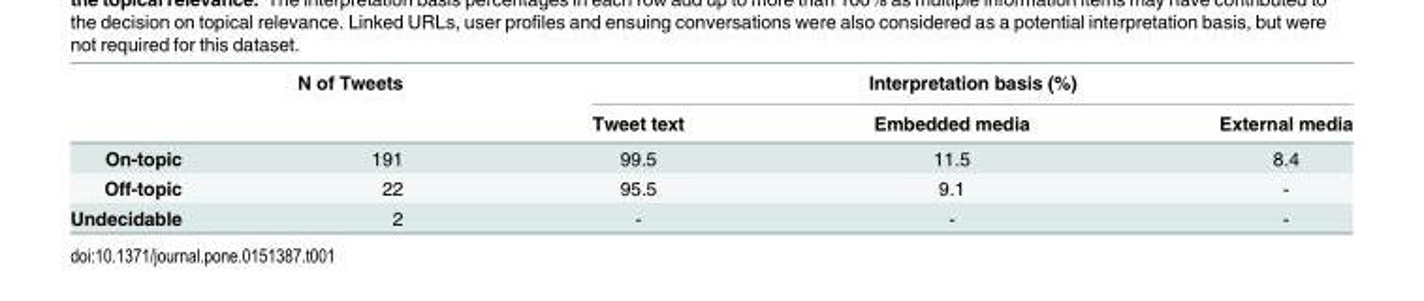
<table><thead><tr><td rowspan="2" colspan="2">N of Tweets</td><td colspan="3">Interpretation basis (%)</td></tr><tr><td rowspan="2">Tweet text 99.5</td><td rowspan="2">Embedded media 11.5</td><td rowspan="2">External media 8.4</td></tr><tr><td>On-topic</td><td>191</td></tr></thead><tbody><tr><td>Off-topic</td><td>22</td><td>95.5</td><td>9.1</td><td>-</td></tr><tr><td>Undecidable</td><td>2</td><td>-</td><td>-</td><td>-</td></tr></tbody></table>